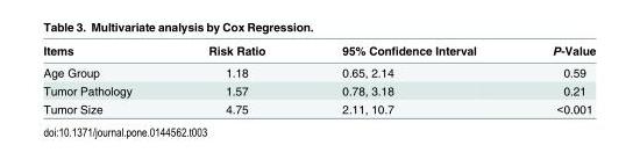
<table><thead><tr><td>Items</td><td>Risk Ratio</td><td>95% Confidence Interval</td><td>P-Value</td></tr></thead><tbody><tr><td>Age Group</td><td>1.18</td><td>0.65, 2.14</td><td>0.59</td></tr><tr><td>Tumor Pathology</td><td>1.57</td><td>0.78, 3.18</td><td>0.21</td></tr><tr><td>Tumor Size</td><td>4.75</td><td>2.11, 10.7</td><td>&lt;0.001</td></tr></tbody></table>